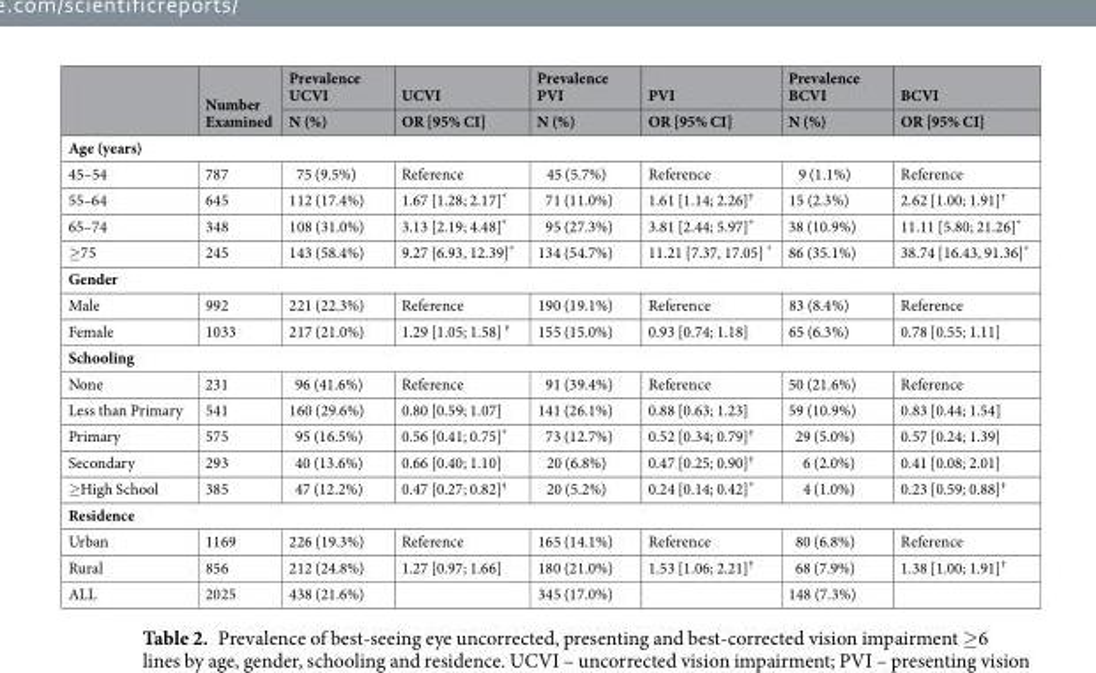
<table><thead><tr><td rowspan="2"></td><td rowspan="2">Number Examined</td><td rowspan="2">Prevalence UCVI N (%)</td><td rowspan="2">UCVI OR [95% CI]</td><td rowspan="2">Prevalence PVI N (%)</td><td rowspan="2">PVI OR [95% CI]</td><td rowspan="2">Prevalence BCVI N (%)</td><td rowspan="2">BCVI OR [95% CI]</td></tr><tr></tr></thead><tbody><tr><td colspan="8">Age (years)</td></tr><tr><td>45–54</td><td>787</td><td>75 (9.5%)</td><td>Reference</td><td>45 (5.7%)</td><td>Reference</td><td>9 (1.1%)</td><td>Reference</td></tr><tr><td>55–64</td><td>645</td><td>112 (17.4%)</td><td>1.67 [1.28; 2.17]*</td><td>71 (11.0%)</td><td>1.61 [1.14; 2.26]<sup>†</sup></td><td>15 (2.3%)</td><td>2.62 [1.00; 1.91]<sup>†</sup></td></tr><tr><td>65–74</td><td>348</td><td>108 (31.0%)</td><td>3.13 [2.19; 4.48]*</td><td>95 (27.3%)</td><td>3.81 [2.44; 5.97]*</td><td>38 (10.9%)</td><td>11.11 [5.80; 21.26]*</td></tr><tr><td>≥75</td><td>245</td><td>143 (58.4%)</td><td>9.27 [6.93, 12.39]*</td><td>134 (54.7%)</td><td>11.21 [7.37, 17.05] *</td><td>86 (35.1%)</td><td>38.74 [16.43, 91.36]*</td></tr><tr><td colspan="8">Gender</td></tr><tr><td>Male</td><td>992</td><td>221 (22.3%)</td><td>Reference</td><td>190 (19.1%)</td><td>Reference</td><td>83 (8.4%)</td><td>Reference</td></tr><tr><td>Female</td><td>1033</td><td>217 (21.0%)</td><td>1.29 [1.05; 1.58] <sup>†</sup></td><td>155 (15.0%)</td><td>0.93 [0.74; 1.18]</td><td>65 (6.3%)</td><td>0.78 [0.55; 1.11]</td></tr><tr><td colspan="8">Schooling</td></tr><tr><td>None</td><td>231</td><td>96 (41.6%)</td><td>Reference</td><td>91 (39.4%)</td><td>Reference</td><td>50 (21.6%)</td><td>Reference</td></tr><tr><td>Less than Primary</td><td>541</td><td>160 (29.6%)</td><td>0.80 [0.59; 1.07]</td><td>141 (26.1%)</td><td>0.88 [0.63; 1.23]</td><td>59 (10.9%)</td><td>0.83 [0.44; 1.54]</td></tr><tr><td>Primary</td><td>575</td><td>95 (16.5%)</td><td>0.56 [0.41; 0.75]*</td><td>73 (12.7%)</td><td>0.52 [0.34; 0.79]<sup>†</sup></td><td>29 (5.0%)</td><td>0.57 [0.24; 1.39]</td></tr><tr><td>Secondary</td><td>293</td><td>40 (13.6%)</td><td>0.66 [0.40; 1.10]</td><td>20 (6.8%)</td><td>0.47 [0.25; 0.90]<sup>†</sup></td><td>6 (2.0%)</td><td>0.41 [0.08; 2.01]</td></tr><tr><td>≥High School</td><td>385</td><td>47 (12.2%)</td><td>0.47 [0.27; 0.82]<sup>†</sup></td><td>20 (5.2%)</td><td>0.24 [0.14; 0.42]*</td><td>4 (1.0%)</td><td>0.23 [0.59; 0.88]<sup>†</sup></td></tr><tr><td colspan="8">Residence</td></tr><tr><td>Urban</td><td>1169</td><td>226 (19.3%)</td><td>Reference</td><td>165 (14.1%)</td><td>Reference</td><td>80 (6.8%)</td><td>Reference</td></tr><tr><td>Rural</td><td>856</td><td>212 (24.8%)</td><td>1.27 [0.97; 1.66]</td><td>180 (21.0%)</td><td>1.53 [1.06; 2.21]<sup>†</sup></td><td>68 (7.9%)</td><td>1.38 [1.00; 1.91]<sup>†</sup></td></tr><tr><td>ALL</td><td>2025</td><td>438 (21.6%)</td><td></td><td>345 (17.0%)</td><td></td><td>148 (7.3%)</td><td></td></tr></tbody></table>